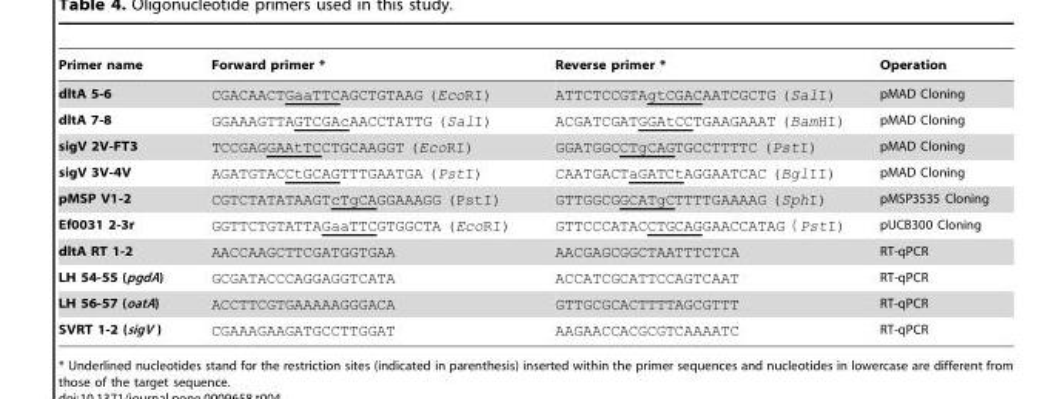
<table><thead><tr><td>Primer name</td><td>Forward primer *</td><td>Reverse primer *</td><td>Operation</td></tr></thead><tbody><tr><td>dltA 5-6</td><td>CGACAACTGaaTTCAGCTGTAAG (EcoRI)</td><td>ATTCTCCGTAgtCGACAATCGCTG (SalI)</td><td>pMAD Cloning</td></tr><tr><td>dltA 7-8</td><td>GGAAAGTTAGTCGAcAACCTATTG (SalI)</td><td>ACGATCGATGGAtCCTGAAGAAAT (BamHI)</td><td>pMAD Cloning</td></tr><tr><td>sigV 2V-FT3</td><td>TCCGAGGAAtTCCTGCAAGGT (EcoRI)</td><td>GGATGGCCTgCAGTGCCTTTTC (PstI)</td><td>pMAD Cloning</td></tr><tr><td>sigV 3V-4V</td><td>AGATGTACCtGCAGTTTGAATGA (PstI)</td><td>CAATGACTaGATCtAGGAATCAC (BglII)</td><td>pMAD Cloning</td></tr><tr><td>pMSP V1-2</td><td>CGTCTATATAAGTcTgCAGGAAAGG (PstI)</td><td>GTTGGCGGCATgCTTTTGAAAAG (SphI)</td><td>pMSP3535 Cloning</td></tr><tr><td>Ef0031 2-3r</td><td>GGTTCTGTATTAGaaTTCGTGGCTA (EcoRI)</td><td>GTTCCCATACCTGCAGGAACCATAG (PstI)</td><td>pUCB300 Cloning</td></tr><tr><td>dltA RT 1-2</td><td>AACCAAGCTTCGATGGTGAA</td><td>AACGAGCGGCTAATTTCTCA</td><td>RT-qPCR</td></tr><tr><td>LH 54-55 (pgdA)</td><td>GCGATACCCAGGAGGTCATA</td><td>ACCATCGCATTCCAGTCAAT</td><td>RT-qPCR</td></tr><tr><td>LH 56-57 (oatA)</td><td>ACCTTCGTGAAAAAGGGACA</td><td>GTTGCGCACTTTTAGCGTTT</td><td>RT-qPCR</td></tr><tr><td>SVRT 1-2 (sigV )</td><td>CGAAAGAAGATGCCTTGGAT</td><td>AAGAACCACGCGTCAAAATC</td><td>RT-qPCR</td></tr></tbody></table>